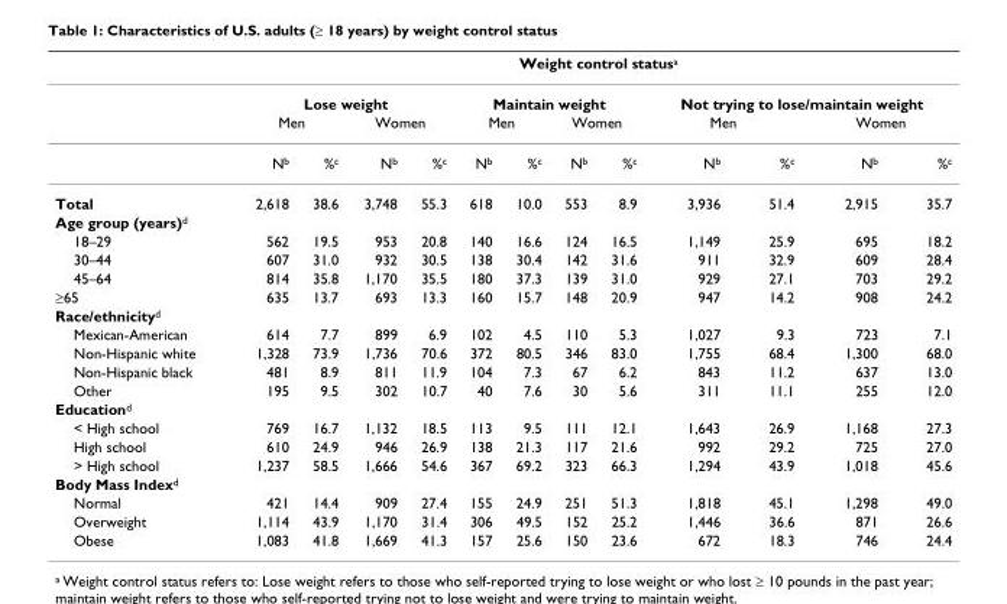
<table><thead><tr><td rowspan="4"></td><td colspan="12">Weight control status<sup>a</sup></td></tr><tr><td colspan="4">Lose weight</td><td colspan="4">Maintain weight</td><td colspan="4">Not trying to lose/maintain weight</td></tr><tr><td colspan="2">Men</td><td colspan="2">Women</td><td colspan="2">Men</td><td colspan="2">Women</td><td colspan="2">Men</td><td colspan="2">Women</td></tr><tr><td>N<sup>b</sup></td><td>%<sup>c</sup></td><td>N<sup>b</sup></td><td>%<sup>c</sup></td><td>N<sup>b</sup></td><td>%<sup>c</sup></td><td>N<sup>b</sup></td><td>%<sup>c</sup></td><td>N<sup>b</sup></td><td>%<sup>c</sup></td><td>N<sup>b</sup></td><td>%<sup>c</sup></td></tr></thead><tbody><tr><td>Total</td><td>2,618</td><td>38.6</td><td>3,748</td><td>55.3</td><td>618</td><td>10.0</td><td>553</td><td>8.9</td><td>3,936</td><td>51.4</td><td>2,915</td><td>35.7</td></tr><tr><td colspan="13">Age group (years)<sup>d</sup></td></tr><tr><td>18–29</td><td>562</td><td>19.5</td><td>953</td><td>20.8</td><td>140</td><td>16.6</td><td>124</td><td>16.5</td><td>1,149</td><td>25.9</td><td>695</td><td>18.2</td></tr><tr><td>30–44</td><td>607</td><td>31.0</td><td>932</td><td>30.5</td><td>138</td><td>30.4</td><td>142</td><td>31.6</td><td>911</td><td>32.9</td><td>609</td><td>28.4</td></tr><tr><td>45–64</td><td>814</td><td>35.8</td><td>1,170</td><td>35.5</td><td>180</td><td>37.3</td><td>139</td><td>31.0</td><td>929</td><td>27.1</td><td>703</td><td>29.2</td></tr><tr><td>≥65</td><td>635</td><td>13.7</td><td>693</td><td>13.3</td><td>160</td><td>15.7</td><td>148</td><td>20.9</td><td>947</td><td>14.2</td><td>908</td><td>24.2</td></tr><tr><td colspan="13">Race/ethnicity<sup>d</sup></td></tr><tr><td>Mexican-American</td><td>614</td><td>7.7</td><td>899</td><td>6.9</td><td>102</td><td>4.5</td><td>110</td><td>5.3</td><td>1,027</td><td>9.3</td><td>723</td><td>7.1</td></tr><tr><td>Non-Hispanic white</td><td>1,328</td><td>73.9</td><td>1,736</td><td>70.6</td><td>372</td><td>80.5</td><td>346</td><td>83.0</td><td>1,755</td><td>68.4</td><td>1,300</td><td>68.0</td></tr><tr><td>Non-Hispanic black</td><td>481</td><td>8.9</td><td>811</td><td>11.9</td><td>104</td><td>7.3</td><td>67</td><td>6.2</td><td>843</td><td>11.2</td><td>637</td><td>13.0</td></tr><tr><td>Other</td><td>195</td><td>9.5</td><td>302</td><td>10.7</td><td>40</td><td>7.6</td><td>30</td><td>5.6</td><td>311</td><td>11.1</td><td>255</td><td>12.0</td></tr><tr><td colspan="13">Education<sup>d</sup></td></tr><tr><td>&lt; High school</td><td>769</td><td>16.7</td><td>1,132</td><td>18.5</td><td>113</td><td>9.5</td><td>111</td><td>12.1</td><td>1,643</td><td>26.9</td><td>1,168</td><td>27.3</td></tr><tr><td>High school</td><td>610</td><td>24.9</td><td>946</td><td>26.9</td><td>138</td><td>21.3</td><td>117</td><td>21.6</td><td>992</td><td>29.2</td><td>725</td><td>27.0</td></tr><tr><td>&gt; High school</td><td>1,237</td><td>58.5</td><td>1,666</td><td>54.6</td><td>367</td><td>69.2</td><td>323</td><td>66.3</td><td>1,294</td><td>43.9</td><td>1,018</td><td>45.6</td></tr><tr><td colspan="13">Body Mass Index<sup>d</sup></td></tr><tr><td>Normal</td><td>421</td><td>14.4</td><td>909</td><td>27.4</td><td>155</td><td>24.9</td><td>251</td><td>51.3</td><td>1,818</td><td>45.1</td><td>1,298</td><td>49.0</td></tr><tr><td>Overweight</td><td>1,114</td><td>43.9</td><td>1,170</td><td>31.4</td><td>306</td><td>49.5</td><td>152</td><td>25.2</td><td>1,446</td><td>36.6</td><td>871</td><td>26.6</td></tr><tr><td>Obese</td><td>1,083</td><td>41.8</td><td>1,669</td><td>41.3</td><td>157</td><td>25.6</td><td>150</td><td>23.6</td><td>672</td><td>18.3</td><td>746</td><td>24.4</td></tr></tbody></table>